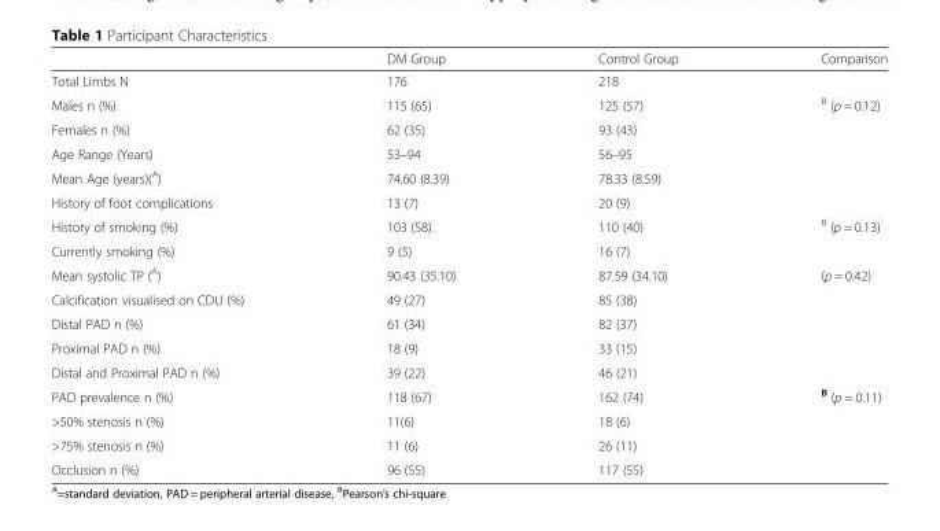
<table><thead><tr><td></td><td>DM Group</td><td>Control Group</td><td>Comparison</td></tr></thead><tbody><tr><td>Total Limbs N</td><td>176</td><td>218</td><td></td></tr><tr><td>Males n (%)</td><td>115 (65)</td><td>125 (57)</td><td><sup>B</sup> (p = 0.12)</td></tr><tr><td>Females n (%)</td><td>62 (35)</td><td>93 (43)</td><td></td></tr><tr><td>Age Range (Years)</td><td>53–94</td><td>56–95</td><td></td></tr><tr><td>Mean Age (years)(<sup>A</sup>)</td><td>74.60 (8.39)</td><td>78.33 (8.59)</td><td></td></tr><tr><td>History of foot complications</td><td>13 (7)</td><td>20 (9)</td><td></td></tr><tr><td>History of smoking (%)</td><td>103 (58)</td><td>110 (40)</td><td><sup>B</sup> (p = 0.13)</td></tr><tr><td>Currently smoking (%)</td><td>9 (5)</td><td>16 (7)</td><td></td></tr><tr><td>Mean systolic TP (<sup>A</sup>)</td><td>90.43 (35.10)</td><td>87.59 (34.10)</td><td>(p = 0.42)</td></tr><tr><td>Calcification visualised on CDU (%)</td><td>49 (27)</td><td>85 (38)</td><td></td></tr><tr><td>Distal PAD n (%)</td><td>61 (34)</td><td>82 (37)</td><td></td></tr><tr><td>Proximal PAD n (%)</td><td>18 (9)</td><td>33 (15)</td><td></td></tr><tr><td>Distal and Proximal PAD n (%)</td><td>39 (22)</td><td>46 (21)</td><td></td></tr><tr><td>PAD prevalence n (%)</td><td>118 (67)</td><td>162 (74)</td><td><sup>B</sup> (p = 0.11)</td></tr><tr><td>&gt;50% stenosis n (%)</td><td>11(6)</td><td>18 (6)</td><td></td></tr><tr><td>&gt;75% stenosis n (%)</td><td>11 (6)</td><td>26 (11)</td><td></td></tr><tr><td>Occlusion n (%)</td><td>96 (55)</td><td>117 (55)</td><td></td></tr></tbody></table>